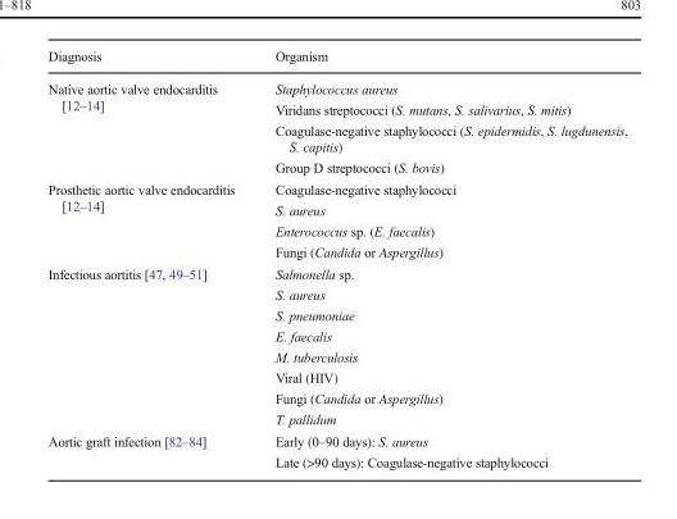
<table><thead><tr><td>Diagnosis</td><td>Organism</td></tr></thead><tbody><tr><td>Native aortic valve endocarditis [12–14]</td><td>Staphylococcus aureus Viridans streptococci (S. mutans, S. salivarius, S. mitis) Coagulase-negative staphylococci (S. epidermidis, S. lugdunensis, S. capitis) Group D streptococci (S. bovis)</td></tr><tr><td>Prosthetic aortic valve endocarditis [12–14]</td><td>Coagulase-negative staphylococci S. aureus Enterococcus sp. (E. faecalis) Fungi (Candida or Aspergillus)</td></tr><tr><td>Infectious aortitis [47, 49–51]</td><td>Salmonella sp. S. aureus S. pneumoniae E. faecalis M. tuberculosis Viral (HIV) Fungi (Candida or Aspergillus) T. pallidum</td></tr><tr><td>Aortic graft infection [82–84]</td><td>Early (0–90 days): S. aureus Late (&gt;90 days): Coagulase-negative staphylococci</td></tr></tbody></table>